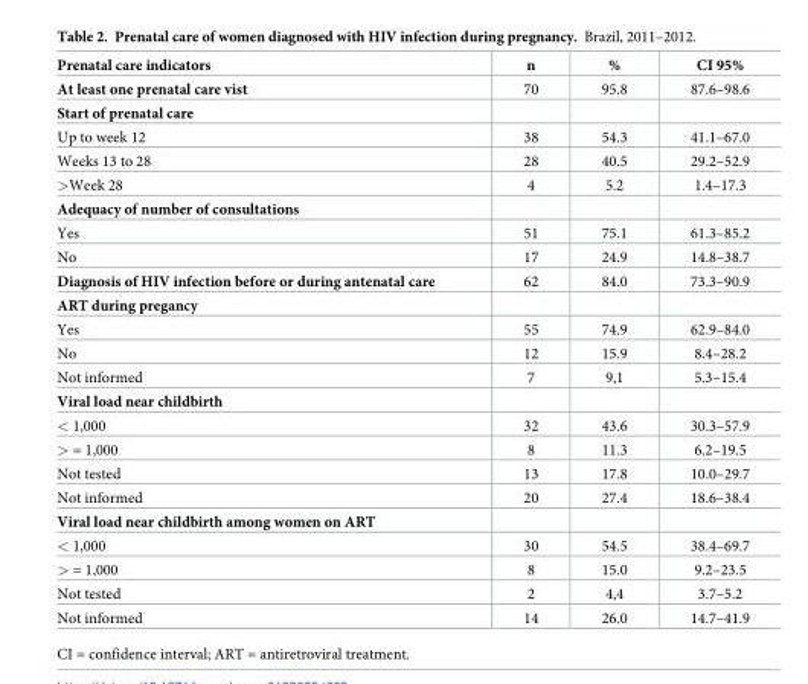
<table><thead><tr><td>Prenatal care indicators</td><td>n</td><td>%</td><td>CI 95%</td></tr></thead><tbody><tr><td>At least one prenatal care vist</td><td>70</td><td>95.8</td><td>87.6–98.6</td></tr><tr><td colspan="4">Start of prenatal care</td></tr><tr><td>Up to week 12</td><td>38</td><td>54.3</td><td>41.1–67.0</td></tr><tr><td>Weeks 13 to 28</td><td>28</td><td>40.5</td><td>29.2–52.9</td></tr><tr><td>&gt;Week 28</td><td>4</td><td>5.2</td><td>1.4–17.3</td></tr><tr><td colspan="4">Adequacy of number of consultations</td></tr><tr><td>Yes</td><td>51</td><td>75.1</td><td>61.3–85.2</td></tr><tr><td>No</td><td>17</td><td>24.9</td><td>14.8–38.7</td></tr><tr><td>Diagnosis of HIV infection before or during antenatal care</td><td>62</td><td>84.0</td><td>73.3–90.9</td></tr><tr><td colspan="4">ART during pregancy</td></tr><tr><td>Yes</td><td>55</td><td>74.9</td><td>62.9–84.0</td></tr><tr><td>No</td><td>12</td><td>15.9</td><td>8.4–28.2</td></tr><tr><td>Not informed</td><td>7</td><td>9,1</td><td>5.3–15.4</td></tr><tr><td colspan="4">Viral load near childbirth</td></tr><tr><td>&lt; 1,000</td><td>32</td><td>43.6</td><td>30.3–57.9</td></tr><tr><td>&gt; = 1,000</td><td>8</td><td>11.3</td><td>6.2–19.5</td></tr><tr><td>Not tested</td><td>13</td><td>17.8</td><td>10.0–29.7</td></tr><tr><td>Not informed</td><td>20</td><td>27.4</td><td>18.6–38.4</td></tr><tr><td colspan="4">Viral load near childbirth among women on ART</td></tr><tr><td>&lt; 1,000</td><td>30</td><td>54.5</td><td>38.4–69.7</td></tr><tr><td>&gt; = 1,000</td><td>8</td><td>15.0</td><td>9.2–23.5</td></tr><tr><td>Not tested</td><td>2</td><td>4,4</td><td>3.7–5.2</td></tr><tr><td>Not informed</td><td>14</td><td>26.0</td><td>14.7–41.9</td></tr></tbody></table>